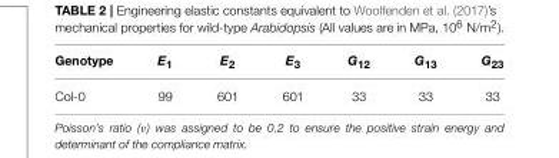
<table><thead><tr><td>Genotype</td><td>E<sub>1</sub></td><td>E<sub>2</sub></td><td>E<sub>3</sub></td><td>G<sub>12</sub></td><td>G<sub>13</sub></td><td>G<sub>23</sub></td></tr></thead><tbody><tr><td>Col-0</td><td>99</td><td>601</td><td>601</td><td>33</td><td>33</td><td>33</td></tr></tbody></table>